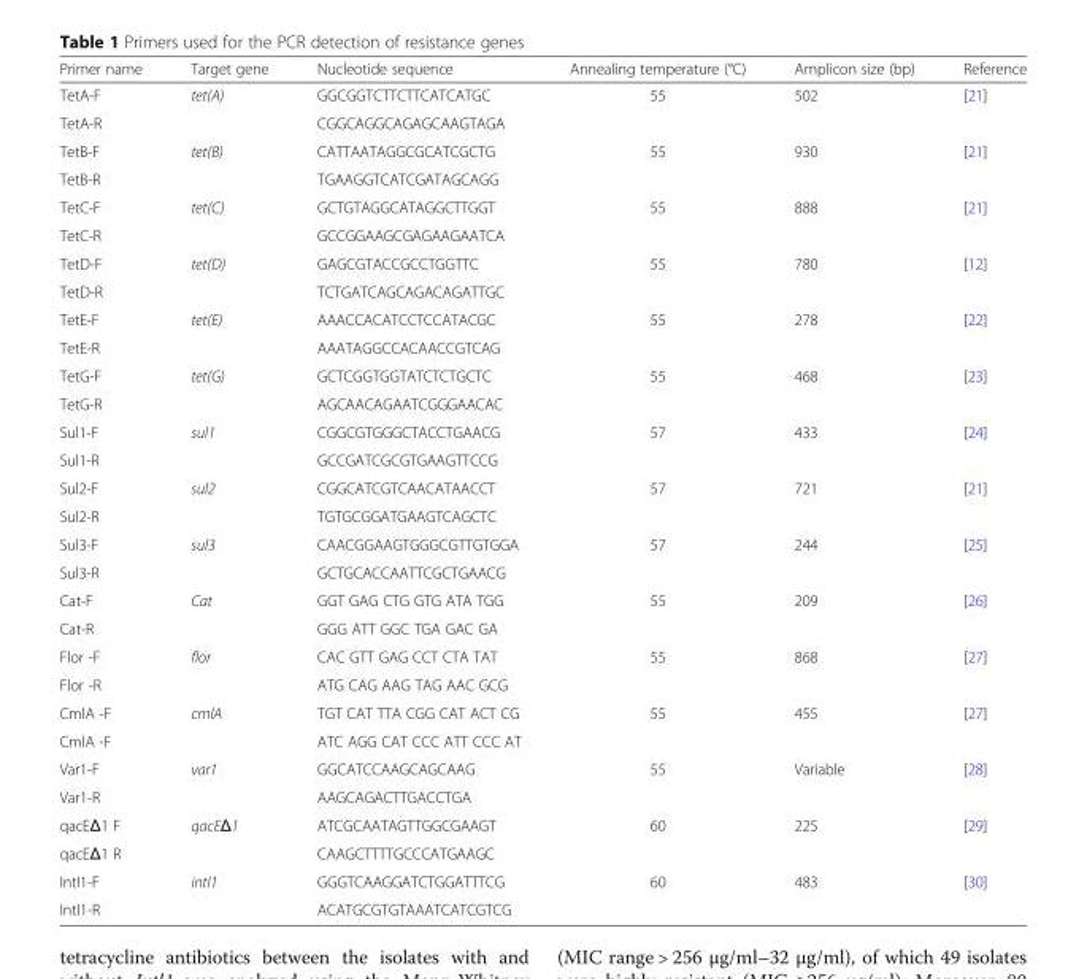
<table><thead><tr><td>Primer name</td><td>Target gene</td><td>Nucleotide sequence</td><td>Annealing temperature (°C)</td><td>Amplicon size (bp)</td><td>Reference</td></tr></thead><tbody><tr><td>TetA-F</td><td rowspan="2">tet(A)</td><td>GGCGGTCTTCTTCATCATGC</td><td rowspan="2">55</td><td rowspan="2">502</td><td rowspan="2">[21]</td></tr><tr><td>TetA-R</td><td>CGGCAGGCAGAGCAAGTAGA</td></tr><tr><td>TetB-F</td><td rowspan="2">tet(B)</td><td>CATTAATAGGCGCATCGCTG</td><td rowspan="2">55</td><td rowspan="2">930</td><td rowspan="2">[21]</td></tr><tr><td>TetB-R</td><td>TGAAGGTCATCGATAGCAGG</td></tr><tr><td>TetC-F</td><td rowspan="2">tet(C)</td><td>GCTGTAGGCATAGGCTTGGT</td><td rowspan="2">55</td><td rowspan="2">888</td><td rowspan="2">[21]</td></tr><tr><td>TetC-R</td><td>GCCGGAAGCGAGAAGAATCA</td></tr><tr><td>TetD-F</td><td rowspan="2">tet(D)</td><td>GAGCGTACCGCCTGGTTC</td><td rowspan="2">55</td><td rowspan="2">780</td><td rowspan="2">[12]</td></tr><tr><td>TetD-R</td><td>TCTGATCAGCAGACAGATTGC</td></tr><tr><td>TetE-F</td><td rowspan="2">tet(E)</td><td>AAACCACATCCTCCATACGC</td><td rowspan="2">55</td><td rowspan="2">278</td><td rowspan="2">[22]</td></tr><tr><td>TetE-R</td><td>AAATAGGCCACAACCGTCAG</td></tr><tr><td>TetG-F</td><td rowspan="2">tet(G)</td><td>GCTCGGTGGTATCTCTGCTC</td><td rowspan="2">55</td><td rowspan="2">468</td><td rowspan="2">[23]</td></tr><tr><td>TetG-R</td><td>AGCAACAGAATCGGGAACAC</td></tr><tr><td>Sul1-F</td><td rowspan="2">sul1</td><td>CGGCGTGGGCTACCTGAACG</td><td rowspan="2">57</td><td rowspan="2">433</td><td rowspan="2">[24]</td></tr><tr><td>Sul1-R</td><td>GCCGATCGCGTGAAGTTCCG</td></tr><tr><td>Sul2-F</td><td rowspan="2">sul2</td><td>CGGCATCGTCAACATAACCT</td><td rowspan="2">57</td><td rowspan="2">721</td><td rowspan="2">[21]</td></tr><tr><td>Sul2-R</td><td>TGTGCGGATGAAGTCAGCTC</td></tr><tr><td>Sul3-F</td><td rowspan="2">sul3</td><td>CAACGGAAGTGGGCGTTGTGGA</td><td rowspan="2">57</td><td rowspan="2">244</td><td rowspan="2">[25]</td></tr><tr><td>Sul3-R</td><td>GCTGCACCAATTCGCTGAACG</td></tr><tr><td>Cat-F</td><td rowspan="2">Cat</td><td>GGT GAG CTG GTG ATA TGG</td><td rowspan="2">55</td><td rowspan="2">209</td><td rowspan="2">[26]</td></tr><tr><td>Cat-R</td><td>GGG ATT GGC TGA GAC GA</td></tr><tr><td>Flor -F</td><td rowspan="2">flor</td><td>CAC GTT GAG CCT CTA TAT</td><td rowspan="2">55</td><td rowspan="2">868</td><td rowspan="2">[27]</td></tr><tr><td>Flor -R</td><td>ATG CAG AAG TAG AAC GCG</td></tr><tr><td>CmlA -F</td><td rowspan="2">cmlA</td><td>TGT CAT TTA CGG CAT ACT CG</td><td rowspan="2">55</td><td rowspan="2">455</td><td rowspan="2">[27]</td></tr><tr><td>CmlA -F</td><td>ATC AGG CAT CCC ATT CCC AT</td></tr><tr><td>Var1-F</td><td rowspan="2">var1</td><td>GGCATCCAAGCAGCAAG</td><td rowspan="2">55</td><td rowspan="2">Variable</td><td rowspan="2">[28]</td></tr><tr><td>Var1-R</td><td>AAGCAGACTTGACCTGA</td></tr><tr><td>qacEΔ1 F</td><td rowspan="2">qacEΔ1</td><td>ATCGCAATAGTTGGCGAAGT</td><td rowspan="2">60</td><td rowspan="2">225</td><td rowspan="2">[29]</td></tr><tr><td>qacEΔ1 R</td><td>CAAGCTTTTGCCCATGAAGC</td></tr><tr><td>IntI1-F</td><td rowspan="2">intI1</td><td>GGGTCAAGGATCTGGATTTCG</td><td rowspan="2">60</td><td rowspan="2">483</td><td rowspan="2">[30]</td></tr><tr><td>IntI1-R</td><td>ACATGCGTGTAAATCATCGTCG</td></tr></tbody></table>